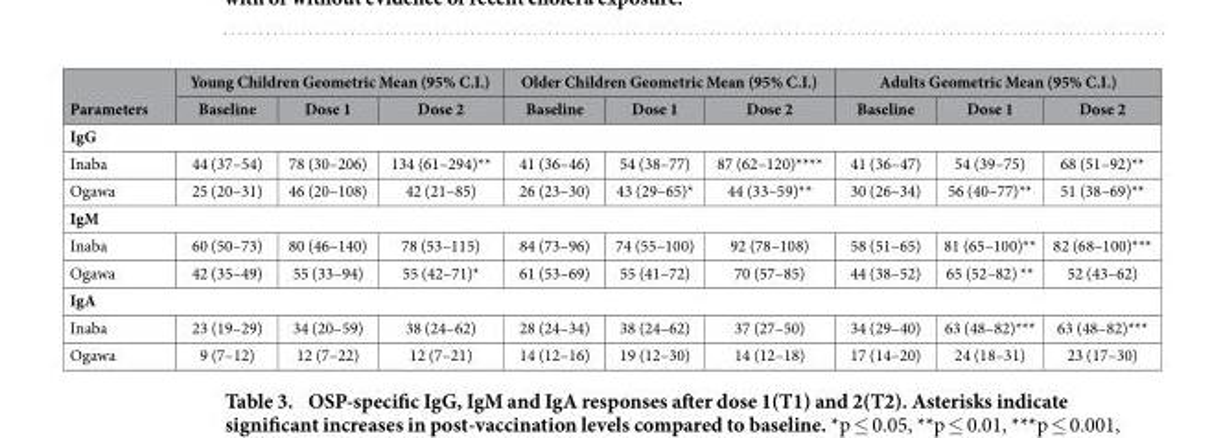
<table><thead><tr><td rowspan="2">Parameters</td><td colspan="3">Young Children Geometric Mean (95% C.I.)</td><td colspan="3">Older Children Geometric Mean (95% C.I.)</td><td colspan="3">Adults Geometric Mean (95% C.I.)</td></tr><tr><td>Baseline</td><td>Dose 1</td><td>Dose 2</td><td>Baseline</td><td>Dose 1</td><td>Dose 2</td><td>Baseline</td><td>Dose 1</td><td>Dose 2</td></tr></thead><tbody><tr><td colspan="10">IgG</td></tr><tr><td>Inaba</td><td>44 (37–54)</td><td>78 (30–206)</td><td>134 (61–294)**</td><td>41 (36–46)</td><td>54 (38–77)</td><td>87 (62–120)****</td><td>41 (36–47)</td><td>54 (39–75)</td><td>68 (51–92)**</td></tr><tr><td>Ogawa</td><td>25 (20–31)</td><td>46 (20–108)</td><td>42 (21–85)</td><td>26 (23–30)</td><td>43 (29–65)*</td><td>44 (33–59)**</td><td>30 (26–34)</td><td>56 (40–77)**</td><td>51 (38–69)**</td></tr><tr><td colspan="10">IgM</td></tr><tr><td>Inaba</td><td>60 (50–73)</td><td>80 (46–140)</td><td>78 (53–115)</td><td>84 (73–96)</td><td>74 (55–100)</td><td>92 (78–108)</td><td>58 (51–65)</td><td>81 (65–100)**</td><td>82 (68–100)***</td></tr><tr><td>Ogawa</td><td>42 (35–49)</td><td>55 (33–94)</td><td>55 (42–71)*</td><td>61 (53–69)</td><td>55 (41–72)</td><td>70 (57–85)</td><td>44 (38–52)</td><td>65 (52–82) **</td><td>52 (43–62)</td></tr><tr><td colspan="10">IgA</td></tr><tr><td>Inaba</td><td>23 (19–29)</td><td>34 (20–59)</td><td>38 (24–62)</td><td>28 (24–34)</td><td>38 (24–62)</td><td>37 (27–50)</td><td>34 (29–40)</td><td>63 (48–82)***</td><td>63 (48–82)***</td></tr><tr><td>Ogawa</td><td>9 (7–12)</td><td>12 (7–22)</td><td>12 (7–21)</td><td>14 (12–16)</td><td>19 (12–30)</td><td>14 (12–18)</td><td>17 (14–20)</td><td>24 (18–31)</td><td>23 (17–30)</td></tr></tbody></table>